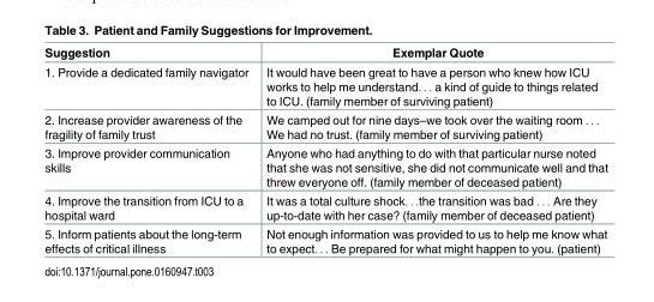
<table><thead><tr><td>Suggestion</td><td>Exemplar Quote</td></tr></thead><tbody><tr><td>1. Provide a dedicated family navigator</td><td>It would have been great to have a person who knew how ICU works to help me understand. . . a kind of guide to things related to ICU. (family member of surviving patient)</td></tr><tr><td>2. Increase provider awareness of the fragility of family trust</td><td>We camped out for nine days–we took over the waiting room . . . We had no trust. (family member of surviving patient)</td></tr><tr><td>3. Improve provider communication skills</td><td>Anyone who had anything to do with that particular nurse noted that she was not sensitive, she did not communicate well and that threw everyone off. (family member of deceased patient)</td></tr><tr><td>4. Improve the transition from ICU to a hospital ward</td><td>It was a total culture shock. . .the transition was bad . . . Are they up-to-date with her case? (family member of deceased patient)</td></tr><tr><td>5. Inform patients about the long-term effects of critical illness</td><td>Not enough information was provided to us to help me know what to expect. . . Be prepared for what might happen to you. (patient)</td></tr></tbody></table>